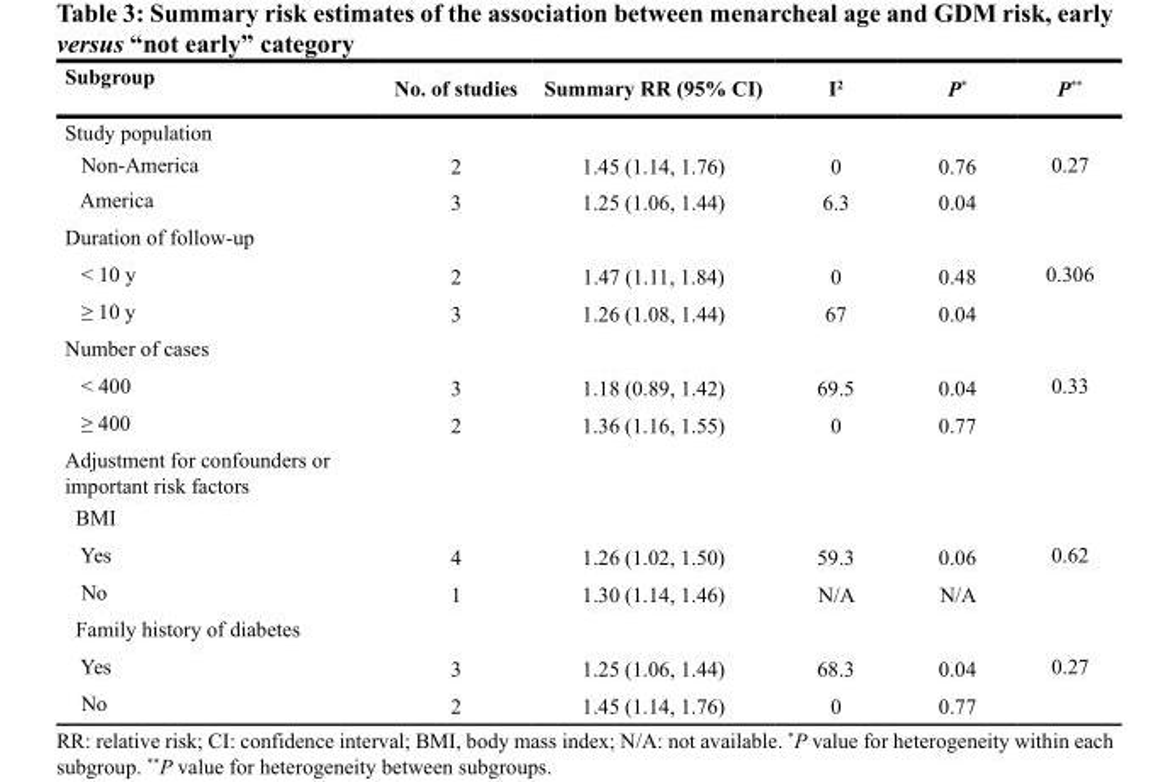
<table><thead><tr><td>Subgroup</td><td>No. of studies</td><td>Summary RR (95% CI)</td><td>I<sup>2</sup></td><td>P*</td><td>P**</td></tr></thead><tbody><tr><td colspan="6">Study population</td></tr><tr><td>Non-America</td><td>2</td><td>1.45 (1.14, 1.76)</td><td>0</td><td>0.76</td><td rowspan="2">0.27</td></tr><tr><td>America</td><td>3</td><td>1.25 (1.06, 1.44)</td><td>6.3</td><td>0.04</td></tr><tr><td colspan="6">Duration of follow-up</td></tr><tr><td>&lt; 10 y</td><td>2</td><td>1.47 (1.11, 1.84)</td><td>0</td><td>0.48</td><td rowspan="2">0.306</td></tr><tr><td>≥ 10 y</td><td>3</td><td>1.26 (1.08, 1.44)</td><td>67</td><td>0.04</td></tr><tr><td colspan="6">Number of cases</td></tr><tr><td>&lt; 400</td><td>3</td><td>1.18 (0.89, 1.42)</td><td>69.5</td><td>0.04</td><td rowspan="2">0.33</td></tr><tr><td>≥ 400</td><td>2</td><td>1.36 (1.16, 1.55)</td><td>0</td><td>0.77</td></tr><tr><td colspan="6">Adjustment for confounders or important risk factors</td></tr><tr><td colspan="6">BMI</td></tr><tr><td>Yes</td><td>4</td><td>1.26 (1.02, 1.50)</td><td>59.3</td><td>0.06</td><td rowspan="2">0.62</td></tr><tr><td>No</td><td>1</td><td>1.30 (1.14, 1.46)</td><td>N/A</td><td>N/A</td></tr><tr><td colspan="6">Family history of diabetes</td></tr><tr><td>Yes</td><td>3</td><td>1.25 (1.06, 1.44)</td><td>68.3</td><td>0.04</td><td rowspan="2">0.27</td></tr><tr><td>No</td><td>2</td><td>1.45 (1.14, 1.76)</td><td>0</td><td>0.77</td></tr></tbody></table>